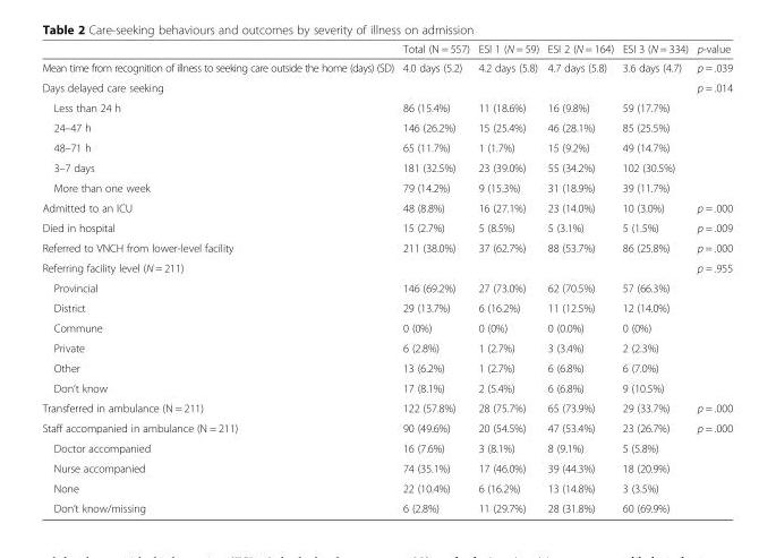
<table><thead><tr><td></td><td>Total (N = 557)</td><td>ESI 1 (N = 59)</td><td>ESI 2 (N = 164)</td><td>ESI 3 (N = 334)</td><td>p-value</td></tr></thead><tbody><tr><td>Mean time from recognition of illness to seeking care outside the home (days) (SD)</td><td>4.0 days (5.2)</td><td>4.2 days (5.8)</td><td>4.7 days (5.8)</td><td>3.6 days (4.7)</td><td>p = .039</td></tr><tr><td>Days delayed care seeking</td><td></td><td></td><td></td><td></td><td>p = .014</td></tr><tr><td>Less than 24 h</td><td>86 (15.4%)</td><td>11 (18.6%)</td><td>16 (9.8%)</td><td>59 (17.7%)</td><td></td></tr><tr><td>24–47 h</td><td>146 (26.2%)</td><td>15 (25.4%)</td><td>46 (28.1%)</td><td>85 (25.5%)</td><td></td></tr><tr><td>48–71 h</td><td>65 (11.7%)</td><td>1 (1.7%)</td><td>15 (9.2%)</td><td>49 (14.7%)</td><td></td></tr><tr><td>3–7 days</td><td>181 (32.5%)</td><td>23 (39.0%)</td><td>55 (34.2%)</td><td>102 (30.5%)</td><td></td></tr><tr><td>More than one week</td><td>79 (14.2%)</td><td>9 (15.3%)</td><td>31 (18.9%)</td><td>39 (11.7%)</td><td></td></tr><tr><td>Admitted to an ICU</td><td>48 (8.8%)</td><td>16 (27.1%)</td><td>23 (14.0%)</td><td>10 (3.0%)</td><td>p = .000</td></tr><tr><td>Died in hospital</td><td>15 (2.7%)</td><td>5 (8.5%)</td><td>5 (3.1%)</td><td>5 (1.5%)</td><td>p = .009</td></tr><tr><td>Referred to VNCH from lower-level facility</td><td>211 (38.0%)</td><td>37 (62.7%)</td><td>88 (53.7%)</td><td>86 (25.8%)</td><td>p = .000</td></tr><tr><td>Referring facility level (N = 211)</td><td></td><td></td><td></td><td></td><td>p = .955</td></tr><tr><td>Provincial</td><td>146 (69.2%)</td><td>27 (73.0%)</td><td>62 (70.5%)</td><td>57 (66.3%)</td><td></td></tr><tr><td>District</td><td>29 (13.7%)</td><td>6 (16.2%)</td><td>11 (12.5%)</td><td>12 (14.0%)</td><td></td></tr><tr><td>Commune</td><td>0 (0%)</td><td>0 (0%)</td><td>0 (0.0%)</td><td>0 (0%)</td><td></td></tr><tr><td>Private</td><td>6 (2.8%)</td><td>1 (2.7%)</td><td>3 (3.4%)</td><td>2 (2.3%)</td><td></td></tr><tr><td>Other</td><td>13 (6.2%)</td><td>1 (2.7%)</td><td>6 (6.8%)</td><td>6 (7.0%)</td><td></td></tr><tr><td>Don’t know</td><td>17 (8.1%)</td><td>2 (5.4%)</td><td>6 (6.8%)</td><td>9 (10.5%)</td><td></td></tr><tr><td>Transferred in ambulance (N = 211)</td><td>122 (57.8%)</td><td>28 (75.7%)</td><td>65 (73.9%)</td><td>29 (33.7%)</td><td>p = .000</td></tr><tr><td>Staff accompanied in ambulance (N = 211)</td><td>90 (49.6%)</td><td>20 (54.5%)</td><td>47 (53.4%)</td><td>23 (26.7%)</td><td>p = .000</td></tr><tr><td>Doctor accompanied</td><td>16 (7.6%)</td><td>3 (8.1%)</td><td>8 (9.1%)</td><td>5 (5.8%)</td><td></td></tr><tr><td>Nurse accompanied</td><td>74 (35.1%)</td><td>17 (46.0%)</td><td>39 (44.3%)</td><td>18 (20.9%)</td><td></td></tr><tr><td>None</td><td>22 (10.4%)</td><td>6 (16.2%)</td><td>13 (14.8%)</td><td>3 (3.5%)</td><td></td></tr><tr><td>Don’t know/missing</td><td>6 (2.8%)</td><td>11 (29.7%)</td><td>28 (31.8%)</td><td>60 (69.9%)</td><td></td></tr></tbody></table>